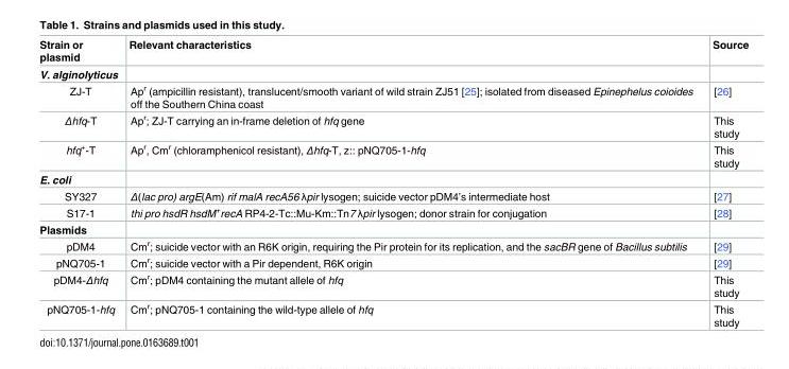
<table><thead><tr><td>Strain or plasmid</td><td>Relevant characteristics</td><td>Source</td></tr></thead><tbody><tr><td colspan="3">V. alginolyticus</td></tr><tr><td>ZJ-T</td><td>Ap<sup>r</sup> (ampicillin resistant), translucent/smooth variant of wild strain ZJ51 [25]; isolated from diseased Epinephelus coioides off the Southern China coast</td><td>[26]</td></tr><tr><td>Δhfq-T</td><td>Ap<sup>r</sup>; ZJ-T carrying an in-frame deletion of hfq gene</td><td>This study</td></tr><tr><td>hfq<sup>+</sup>-T</td><td>Ap<sup>r</sup>, Cm<sup>r</sup> (chloramphenicol resistant), Δhfq-T, z:: pNQ705-1-hfq</td><td>This study</td></tr><tr><td colspan="3">E. coli</td></tr><tr><td>SY327</td><td>Δ(lac pro) argE(Am) rif malA recA56 λpir lysogen; suicide vector pDM4’s intermediate host</td><td>[27]</td></tr><tr><td>S17-1</td><td>thi pro hsdR hsdM<sup>+</sup>recA RP4-2-Tc::Mu-Km::Tn7 λpir lysogen; donor strain for conjugation</td><td>[28]</td></tr><tr><td colspan="3">Plasmids</td></tr><tr><td>pDM4</td><td>Cm<sup>r</sup>; suicide vector with an R6K origin, requiring the Pir protein for its replication, and the sacBR gene of Bacillus subtilis</td><td>[29]</td></tr><tr><td>pNQ705-1</td><td>Cm<sup>r</sup>; suicide vector with a Pir dependent, R6K origin</td><td>[29]</td></tr><tr><td>pDM4-Δhfq</td><td>Cm<sup>r</sup>; pDM4 containing the mutant allele of hfq</td><td>This study</td></tr><tr><td>pNQ705-1-hfq</td><td>Cm<sup>r</sup>; pNQ705-1 containing the wild-type allele of hfq</td><td>This study</td></tr></tbody></table>